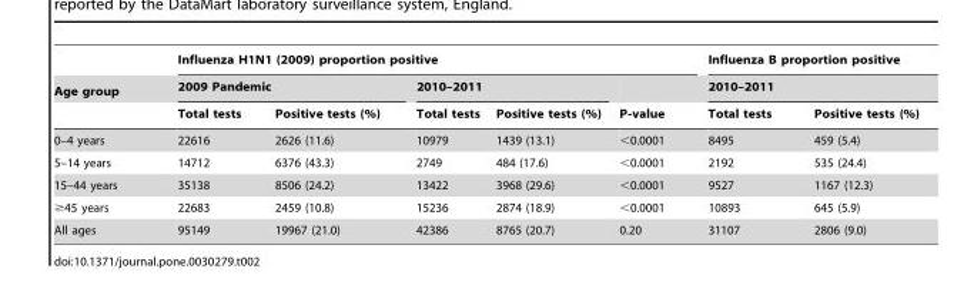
<table><thead><tr><td rowspan="3">Age group</td><td colspan="5">Influenza H1N1 (2009) proportion positive</td><td rowspan="2" colspan="2">Influenza B proportion positive 2010–2011</td></tr><tr><td colspan="2">2009 Pandemic</td><td colspan="2">2010–2011</td><td rowspan="2">P-value</td></tr><tr><td>Total tests</td><td>Positive tests (%)</td><td>Total tests</td><td>Positive tests (%)</td><td>Total tests</td><td>Positive tests (%)</td></tr></thead><tbody><tr><td>0–4 years</td><td>22616</td><td>2626 (11.6)</td><td>10979</td><td>1439 (13.1)</td><td>&lt;0.0001</td><td>8495</td><td>459 (5.4)</td></tr><tr><td>5–14 years</td><td>14712</td><td>6376 (43.3)</td><td>2749</td><td>484 (17.6)</td><td>&lt;0.0001</td><td>2192</td><td>535 (24.4)</td></tr><tr><td>15–44 years</td><td>35138</td><td>8506 (24.2)</td><td>13422</td><td>3968 (29.6)</td><td>&lt;0.0001</td><td>9527</td><td>1167 (12.3)</td></tr><tr><td>≥45 years</td><td>22683</td><td>2459 (10.8)</td><td>15236</td><td>2874 (18.9)</td><td>&lt;0.0001</td><td>10893</td><td>645 (5.9)</td></tr><tr><td>All ages</td><td>95149</td><td>19967 (21.0)</td><td>42386</td><td>8765 (20.7)</td><td>0.20</td><td>31107</td><td>2806 (9.0)</td></tr></tbody></table>